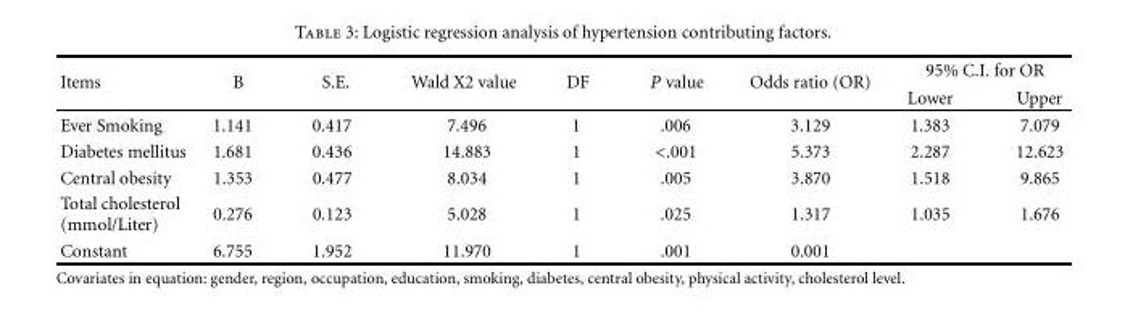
<table><thead><tr><td rowspan="2">Items</td><td rowspan="2">B</td><td rowspan="2">S.E.</td><td rowspan="2">Wald X2 value</td><td rowspan="2">DF</td><td rowspan="2">P value</td><td rowspan="2">Odds ratio (OR)</td><td colspan="2">95% C.I. for OR</td></tr><tr><td>Lower</td><td>Upper</td></tr></thead><tbody><tr><td>Ever Smoking</td><td>1.141</td><td>0.417</td><td>7.496</td><td>1</td><td>.006</td><td>3.129</td><td>1.383</td><td>7.079</td></tr><tr><td>Diabetes mellitus</td><td>1.681</td><td>0.436</td><td>14.883</td><td>1</td><td>&lt;.001</td><td>5.373</td><td>2.287</td><td>12.623</td></tr><tr><td>Central obesity</td><td>1.353</td><td>0.477</td><td>8.034</td><td>1</td><td>.005</td><td>3.870</td><td>1.518</td><td>9.865</td></tr><tr><td>Total cholesterol (mmol/Liter)</td><td>0.276</td><td>0.123</td><td>5.028</td><td>1</td><td>.025</td><td>1.317</td><td>1.035</td><td>1.676</td></tr><tr><td>Constant</td><td>6.755</td><td>1.952</td><td>11.970</td><td>1</td><td>.001</td><td>0.001</td><td></td><td></td></tr></tbody></table>